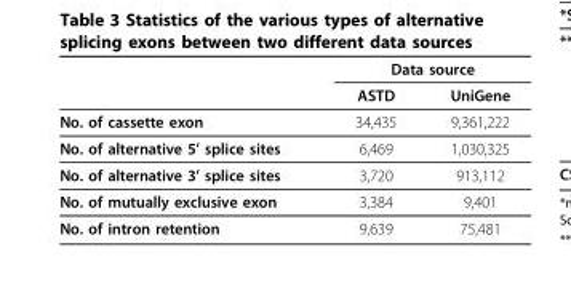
<table><thead><tr><td rowspan="2"></td><td colspan="2">Data source</td></tr><tr><td>ASTD</td><td>UniGene</td></tr></thead><tbody><tr><td>No. of cassette exon</td><td>34,435</td><td>9,361,222</td></tr><tr><td>No. of alternative 5’ splice sites</td><td>6,469</td><td>1,030,325</td></tr><tr><td>No. of alternative 3’ splice sites</td><td>3,720</td><td>913,112</td></tr><tr><td>No. of mutually exclusive exon</td><td>3,384</td><td>9,401</td></tr><tr><td>No. of intron retention</td><td>9,639</td><td>75,481</td></tr></tbody></table>